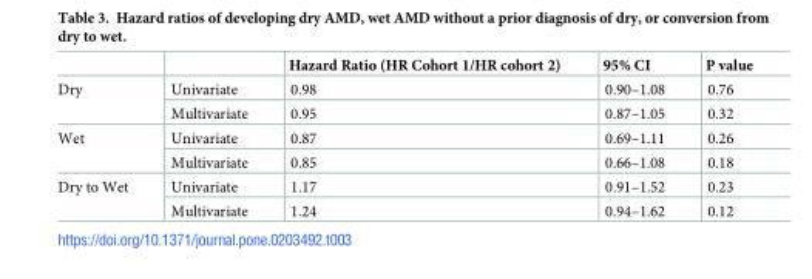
<table><thead><tr><td></td><td></td><td>Hazard Ratio (HR Cohort 1/HR cohort 2)</td><td>95% CI</td><td>P value</td></tr></thead><tbody><tr><td rowspan="2">Dry</td><td>Univariate</td><td>0.98</td><td>0.90–1.08</td><td>0.76</td></tr><tr><td>Multivariate</td><td>0.95</td><td>0.87–1.05</td><td>0.32</td></tr><tr><td rowspan="2">Wet</td><td>Univariate</td><td>0.87</td><td>0.69–1.11</td><td>0.26</td></tr><tr><td>Multivariate</td><td>0.85</td><td>0.66–1.08</td><td>0.18</td></tr><tr><td rowspan="2">Dry to Wet</td><td>Univariate</td><td>1.17</td><td>0.91–1.52</td><td>0.23</td></tr><tr><td>Multivariate</td><td>1.24</td><td>0.94–1.62</td><td>0.12</td></tr></tbody></table>